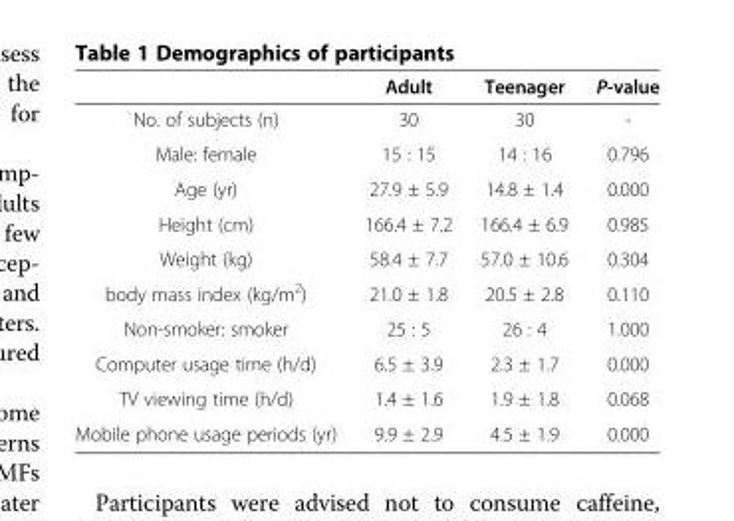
<table><thead><tr><td></td><td>Adult</td><td>Teenager</td><td>P-value</td></tr></thead><tbody><tr><td>No. of subjects (n)</td><td>30</td><td>30</td><td>-</td></tr><tr><td>Male: female</td><td>15 : 15</td><td>14 : 16</td><td>0.796</td></tr><tr><td>Age (yr)</td><td>27.9 ± 5.9</td><td>14.8 ± 1.4</td><td>0.000</td></tr><tr><td>Height (cm)</td><td>166.4 ± 7.2</td><td>166.4 ± 6.9</td><td>0.985</td></tr><tr><td>Weight (kg)</td><td>58.4 ± 7.7</td><td>57.0 ± 10.6</td><td>0.304</td></tr><tr><td>body mass index (kg/m<sup>2</sup>)</td><td>21.0 ± 1.8</td><td>20.5 ± 2.8</td><td>0.110</td></tr><tr><td>Non-smoker: smoker</td><td>25 : 5</td><td>26 : 4</td><td>1.000</td></tr><tr><td>Computer usage time (h/d)</td><td>6.5 ± 3.9</td><td>2.3 ± 1.7</td><td>0.000</td></tr><tr><td>TV viewing time (h/d)</td><td>1.4 ± 1.6</td><td>1.9 ± 1.8</td><td>0.068</td></tr><tr><td>Mobile phone usage periods (yr)</td><td>9.9 ± 2.9</td><td>4.5 ± 1.9</td><td>0.000</td></tr></tbody></table>